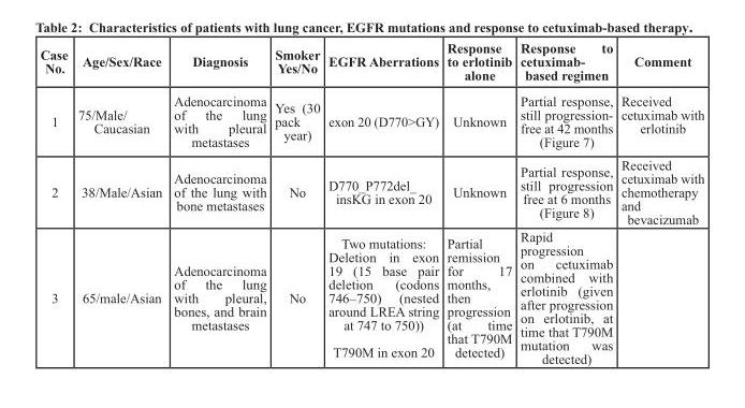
<table><thead><tr><td>Case No.</td><td>Age/Sex/Race</td><td>Diagnosis</td><td>Smoker Yes/No</td><td>EGFR Aberrations</td><td>Response to erlotinib alone</td><td>Response to cetuximab- based regimen</td><td>Comment</td></tr></thead><tbody><tr><td>1</td><td>75/Male/ Caucasian</td><td>Adenocarcinoma of the lung with pleural metastases</td><td>Yes (30 pack year)</td><td>exon 20 (D770&gt;GY)</td><td>Unknown</td><td>Partial response, still progression- free at 42 months (Figure 7)</td><td>Received cetuximab with erlotinib</td></tr><tr><td>2</td><td>38/Male/Asian</td><td>Adenocarcinoma of the lung with bone metastases</td><td>No</td><td>D770_P772del_ insKG in exon 20</td><td>Unknown</td><td>Partial response, still progression free at 6 months (Figure 8)</td><td>Received cetuximab with chemotherapy and bevacizumab</td></tr><tr><td>3</td><td>65/male/Asian</td><td>Adenocarcinoma of the lung with pleural, bones, and brain metastases</td><td>No</td><td>Two mutations: Deletion in exon 19 (15 base pair deletion (codons 746–750) (nested around LREA string at 747 to 750)) T790M in exon 20</td><td>Partial remission for 17 months, then progression (at time that T790M detected)</td><td>Rapid progression on cetuximab combined with erlotinib (given after progression on erlotinib, at time that T790M mutation was detected)</td><td></td></tr></tbody></table>